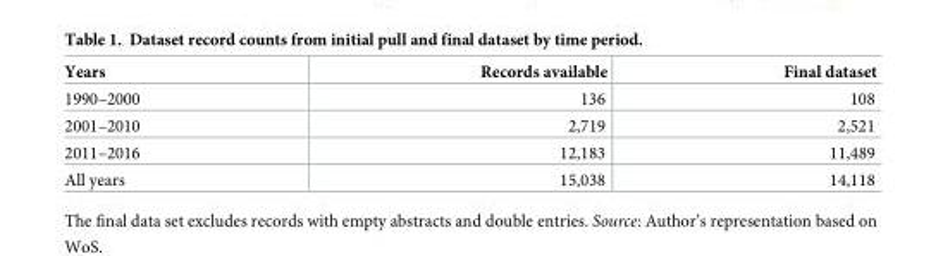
<table><thead><tr><td>Years</td><td>Records available</td><td>Final dataset</td></tr></thead><tbody><tr><td>1990–2000</td><td>136</td><td>108</td></tr><tr><td>2001–2010</td><td>2,719</td><td>2,521</td></tr><tr><td>2011–2016</td><td>12,183</td><td>11,489</td></tr><tr><td>All years</td><td>15,038</td><td>14,118</td></tr></tbody></table>